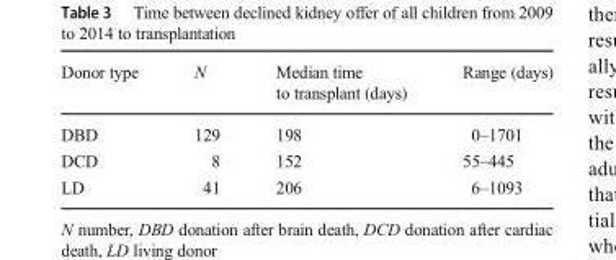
<table><thead><tr><td>Donor type</td><td>N</td><td>Median time to transplant (days)</td><td>Range (days)</td></tr></thead><tbody><tr><td>DBD</td><td>129</td><td>198</td><td>0–1701</td></tr><tr><td>DCD</td><td>8</td><td>152</td><td>55–445</td></tr><tr><td>LD</td><td>41</td><td>206</td><td>6–1093</td></tr></tbody></table>